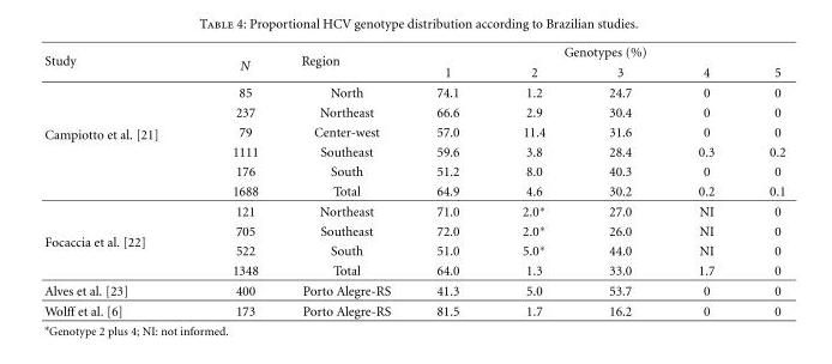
<table><thead><tr><td rowspan="2">Study</td><td rowspan="2">N</td><td rowspan="2">Region</td><td colspan="5">Genotypes (%)</td></tr><tr><td>1</td><td>2</td><td>3</td><td>4</td><td>5</td></tr></thead><tbody><tr><td rowspan="6">Campiotto et al. [21]</td><td>85</td><td>North</td><td>74.1</td><td>1.2</td><td>24.7</td><td>0</td><td>0</td></tr><tr><td>237</td><td>Northeast</td><td>66.6</td><td>2.9</td><td>30.4</td><td>0</td><td>0</td></tr><tr><td>79</td><td>Center-west</td><td>57.0</td><td>11.4</td><td>31.6</td><td>0</td><td>0</td></tr><tr><td>1111</td><td>Southeast</td><td>59.6</td><td>3.8</td><td>28.4</td><td>0.3</td><td>0.2</td></tr><tr><td>176</td><td>South</td><td>51.2</td><td>8.0</td><td>40.3</td><td>0</td><td>0</td></tr><tr><td>1688</td><td>Total</td><td>64.9</td><td>4.6</td><td>30.2</td><td>0.2</td><td>0.1</td></tr><tr><td rowspan="4">Focaccia et al. [22]</td><td>121</td><td>Northeast</td><td>71.0</td><td>2.0∗</td><td>27.0</td><td>NI</td><td>0</td></tr><tr><td>705</td><td>Southeast</td><td>72.0</td><td>2.0∗</td><td>26.0</td><td>NI</td><td>0</td></tr><tr><td>522</td><td>South</td><td>51.0</td><td>5.0∗</td><td>44.0</td><td>NI</td><td>0</td></tr><tr><td>1348</td><td>Total</td><td>64.0</td><td>1.3</td><td>33.0</td><td>1.7</td><td>0</td></tr><tr><td>Alves et al. [23]</td><td>400</td><td>Porto Alegre-RS</td><td>41.3</td><td>5.0</td><td>53.7</td><td>0</td><td>0</td></tr><tr><td>Wolff et al. [6]</td><td>173</td><td>Porto Alegre-RS</td><td>81.5</td><td>1.7</td><td>16.2</td><td>0</td><td>0</td></tr></tbody></table>